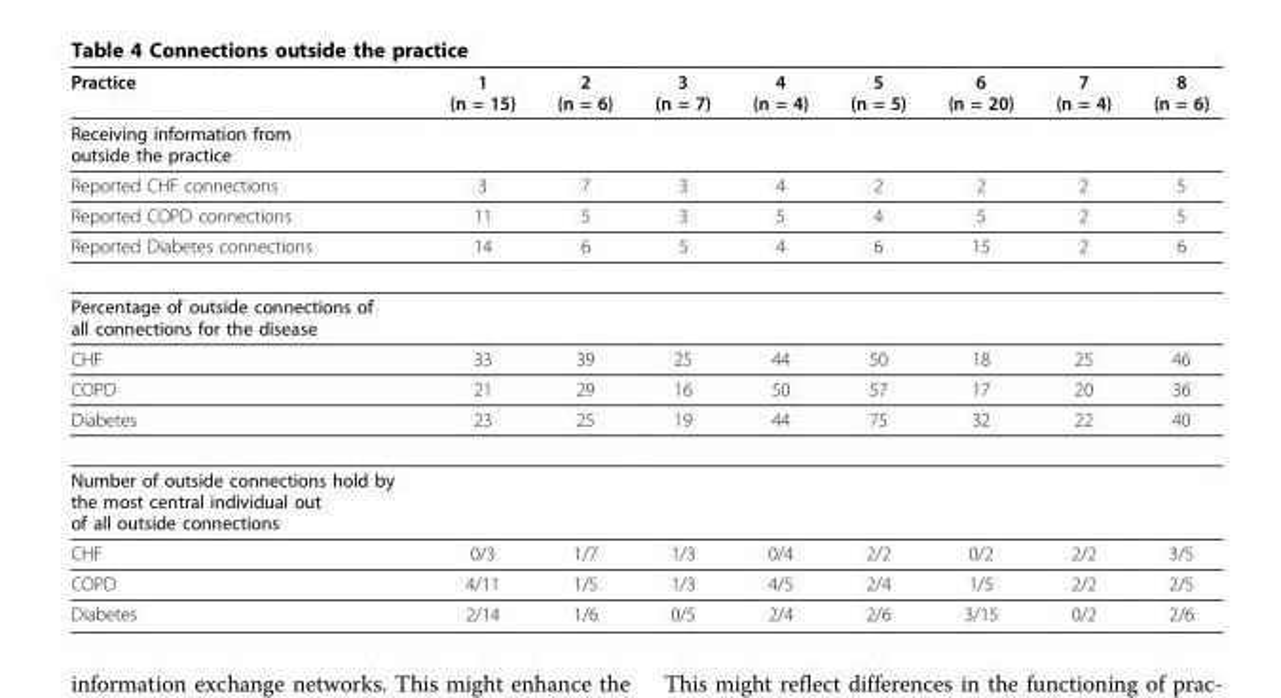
<table><thead><tr><td>Practice</td><td>1 (n = 15)</td><td>2 (n = 6)</td><td>3 (n = 7)</td><td>4 (n = 4)</td><td>5 (n = 5)</td><td>6 (n = 20)</td><td>7 (n = 4)</td><td>8 (n = 6)</td></tr></thead><tbody><tr><td colspan="9">Receiving information from outside the practice</td></tr><tr><td>Reported CHF connections</td><td>3</td><td>7</td><td>3</td><td>4</td><td>2</td><td>2</td><td>2</td><td>5</td></tr><tr><td>Reported COPD connections</td><td>11</td><td>5</td><td>3</td><td>5</td><td>4</td><td>5</td><td>2</td><td>5</td></tr><tr><td>Reported Diabetes connections</td><td>14</td><td>6</td><td>5</td><td>4</td><td>6</td><td>15</td><td>2</td><td>6</td></tr><tr><td colspan="9">Percentage of outside connections of all connections for the disease</td></tr><tr><td>CHF</td><td>33</td><td>39</td><td>25</td><td>44</td><td>50</td><td>18</td><td>25</td><td>46</td></tr><tr><td>COPD</td><td>21</td><td>29</td><td>16</td><td>50</td><td>57</td><td>17</td><td>20</td><td>36</td></tr><tr><td>Diabetes</td><td>23</td><td>25</td><td>19</td><td>44</td><td>75</td><td>32</td><td>22</td><td>40</td></tr><tr><td colspan="9">Number of outside connections hold by the most central individual out of all outside connections</td></tr><tr><td>CHF</td><td>0/3</td><td>1/7</td><td>1/3</td><td>0/4</td><td>2/2</td><td>0/2</td><td>2/2</td><td>3/5</td></tr><tr><td>COPD</td><td>4/11</td><td>1/5</td><td>1/3</td><td>4/5</td><td>2/4</td><td>1/5</td><td>2/2</td><td>2/5</td></tr><tr><td>Diabetes</td><td>2/14</td><td>1/6</td><td>0/5</td><td>2/4</td><td>2/6</td><td>3/15</td><td>0/2</td><td>2/6</td></tr></tbody></table>